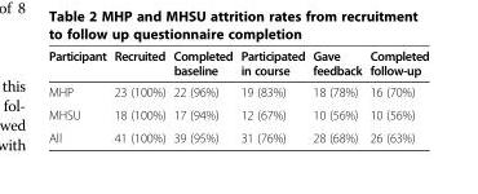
<table><thead><tr><td>Participant</td><td>Recruited</td><td>Completed baseline</td><td>Participated in course</td><td>Gave feedback</td><td>Completed follow-up</td></tr></thead><tbody><tr><td>MHP</td><td>23 (100%)</td><td>22 (96%)</td><td>19 (83%)</td><td>18 (78%)</td><td>16 (70%)</td></tr><tr><td>MHSU</td><td>18 (100%)</td><td>17 (94%)</td><td>12 (67%)</td><td>10 (56%)</td><td>10 (56%)</td></tr><tr><td>All</td><td>41 (100%)</td><td>39 (95%)</td><td>31 (76%)</td><td>28 (68%)</td><td>26 (63%)</td></tr></tbody></table>